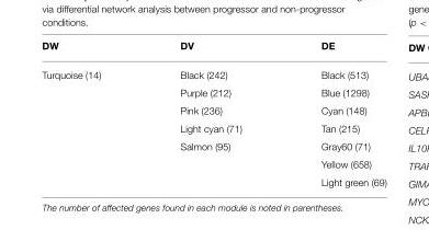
<table><thead><tr><td>DW</td><td>DV</td><td>DE</td></tr></thead><tbody><tr><td rowspan="7">Turquoise (14)</td><td>Black (242)</td><td>Black (513)</td></tr><tr><td>Purple (212)</td><td>Blue (1298)</td></tr><tr><td>Pink (236)</td><td>Cyan (148)</td></tr><tr><td>Light cyan (71)</td><td>Tan (215)</td></tr><tr><td>Salmon (95)</td><td>Gray60 (71)</td></tr><tr><td></td><td>Yellow (658)</td></tr><tr><td></td><td>Light green (69)</td></tr></tbody></table>